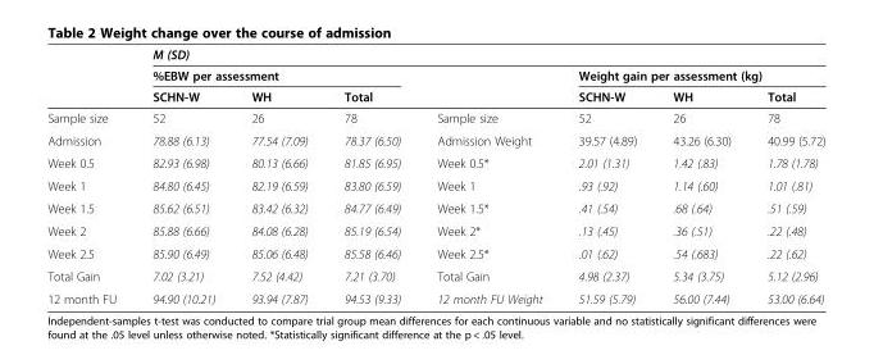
<table><thead><tr><td rowspan="3"></td><td colspan="7">M (SD)</td></tr><tr><td colspan="3">%EBW per assessment</td><td rowspan="2"></td><td colspan="3">Weight gain per assessment (kg)</td></tr><tr><td>SCHN-W</td><td>WH</td><td>Total</td><td>SCHN-W</td><td>WH</td><td>Total</td></tr></thead><tbody><tr><td>Sample size</td><td>52</td><td>26</td><td>78</td><td>Sample size</td><td>52</td><td>26</td><td>78</td></tr><tr><td>Admission</td><td>78.88 (6.13)</td><td>77.54 (7.09)</td><td>78.37 (6.50)</td><td>Admission Weight</td><td>39.57 (4.89)</td><td>43.26 (6.30)</td><td>40.99 (5.72)</td></tr><tr><td>Week 0.5</td><td>82.93 (6.98)</td><td>80.13 (6.66)</td><td>81.85 (6.95)</td><td>Week 0.5*</td><td>2.01 (1.31)</td><td>1.42 (.83)</td><td>1.78 (1.78)</td></tr><tr><td>Week 1</td><td>84.80 (6.45)</td><td>82.19 (6.59)</td><td>83.80 (6.59)</td><td>Week 1</td><td>.93 (.92)</td><td>1.14 (.60)</td><td>1.01 (.81)</td></tr><tr><td>Week 1.5</td><td>85.62 (6.51)</td><td>83.42 (6.32)</td><td>84.77 (6.49)</td><td>Week 1.5*</td><td>.41 (.54)</td><td>.68 (.64)</td><td>.51 (.59)</td></tr><tr><td>Week 2</td><td>85.88 (6.66)</td><td>84.08 (6.28)</td><td>85.19 (6.54)</td><td>Week 2*</td><td>.13 (.45)</td><td>.36 (.51)</td><td>.22 (.48)</td></tr><tr><td>Week 2.5</td><td>85.90 (6.49)</td><td>85.06 (6.48)</td><td>85.58 (6.46)</td><td>Week 2.5*</td><td>.01 (.62)</td><td>.54 (.683)</td><td>.22 (.62)</td></tr><tr><td>Total Gain</td><td>7.02 (3.21)</td><td>7.52 (4.42)</td><td>7.21 (3.70)</td><td>Total Gain</td><td>4.98 (2.37)</td><td>5.34 (3.75)</td><td>5.12 (2.96)</td></tr><tr><td>12 month FU</td><td>94.90 (10.21)</td><td>93.94 (7.87)</td><td>94.53 (9.33)</td><td>12 month FU Weight</td><td>51.59 (5.79)</td><td>56.00 (7.44)</td><td>53.00 (6.64)</td></tr></tbody></table>